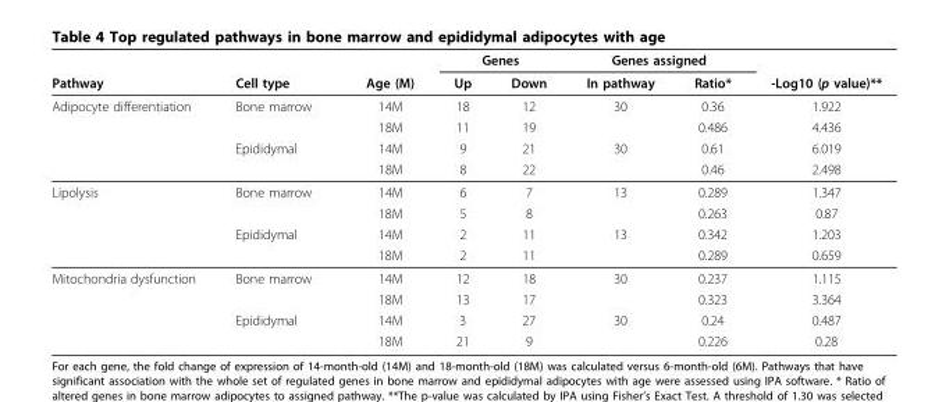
<table><thead><tr><td rowspan="2">Pathway</td><td rowspan="2">Cell type</td><td rowspan="2">Age (M)</td><td colspan="2">Genes</td><td colspan="2">Genes assigned</td><td rowspan="2">-Log10 (p value)**</td></tr><tr><td>Up</td><td>Down</td><td>In pathway</td><td>Ratio*</td></tr></thead><tbody><tr><td rowspan="4">Adipocyte differentiation</td><td>Bone marrow</td><td>14M</td><td>18</td><td>12</td><td>30</td><td>0.36</td><td>1.922</td></tr><tr><td></td><td>18M</td><td>11</td><td>19</td><td></td><td>0.486</td><td>4.436</td></tr><tr><td>Epididymal</td><td>14M</td><td>9</td><td>21</td><td>30</td><td>0.61</td><td>6.019</td></tr><tr><td></td><td>18M</td><td>8</td><td>22</td><td></td><td>0.46</td><td>2.498</td></tr><tr><td rowspan="4">Lipolysis</td><td>Bone marrow</td><td>14M</td><td>6</td><td>7</td><td>13</td><td>0.289</td><td>1.347</td></tr><tr><td></td><td>18M</td><td>5</td><td>8</td><td></td><td>0.263</td><td>0.87</td></tr><tr><td>Epididymal</td><td>14M</td><td>2</td><td>11</td><td>13</td><td>0.342</td><td>1.203</td></tr><tr><td></td><td>18M</td><td>2</td><td>11</td><td></td><td>0.289</td><td>0.659</td></tr><tr><td rowspan="4">Mitochondria dysfunction</td><td>Bone marrow</td><td>14M</td><td>12</td><td>18</td><td>30</td><td>0.237</td><td>1.115</td></tr><tr><td></td><td>18M</td><td>13</td><td>17</td><td></td><td>0.323</td><td>3.364</td></tr><tr><td>Epididymal</td><td>14M</td><td>3</td><td>27</td><td>30</td><td>0.24</td><td>0.487</td></tr><tr><td></td><td>18M</td><td>21</td><td>9</td><td></td><td>0.226</td><td>0.28</td></tr></tbody></table>